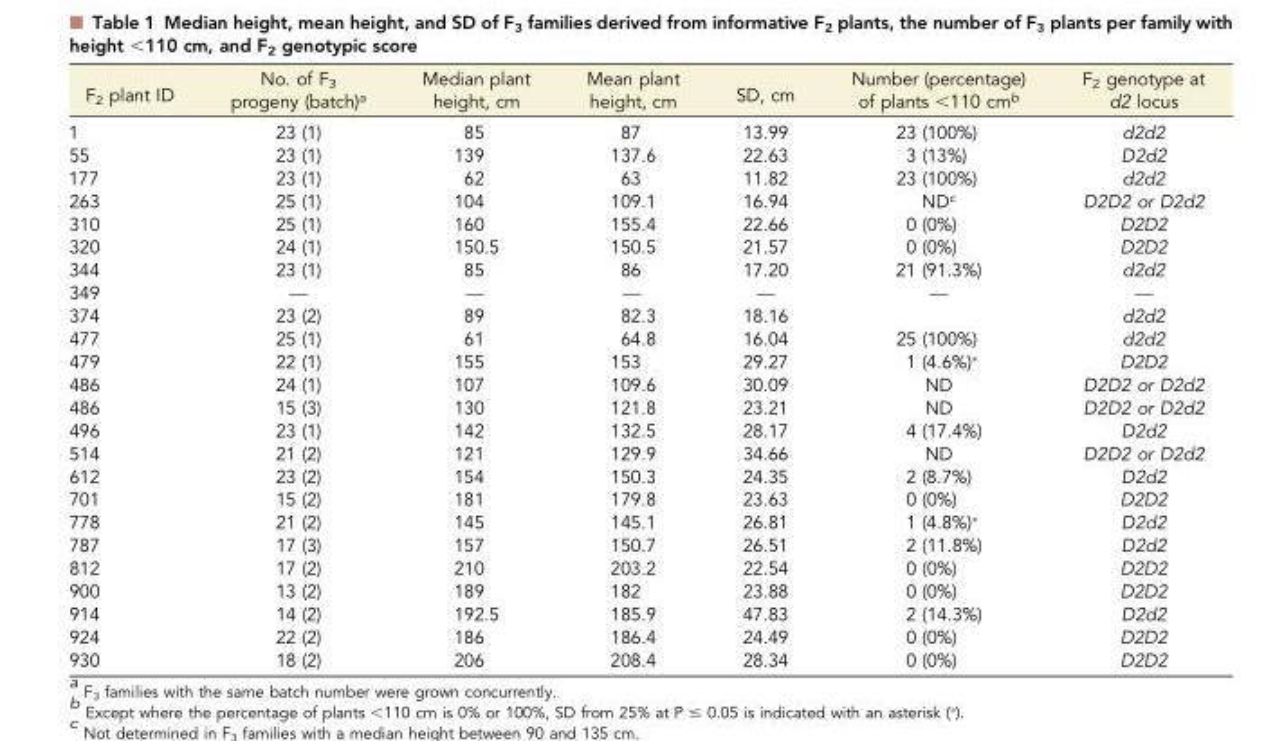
<table><thead><tr><td>F<sub>2</sub> plant ID</td><td>No. of F<sub>3</sub> progeny (batch)<sup>a</sup></td><td>Median plant height, cm</td><td>Mean plant height, cm</td><td>SD, cm</td><td>Number (percentage) of plants &lt;110 cm<sup>b</sup></td><td>F<sub>2</sub> genotype at d2 locus</td></tr></thead><tbody><tr><td>1</td><td>23 (1)</td><td>85</td><td>87</td><td>13.99</td><td>23 (100%)</td><td>d2d2</td></tr><tr><td>55</td><td>23 (1)</td><td>139</td><td>137.6</td><td>22.63</td><td>3 (13%)</td><td>D2d2</td></tr><tr><td>177</td><td>23 (1)</td><td>62</td><td>63</td><td>11.82</td><td>23 (100%)</td><td>d2d2</td></tr><tr><td>263</td><td>25 (1)</td><td>104</td><td>109.1</td><td>16.94</td><td>ND<sup>c</sup></td><td>D2D2 or D2d2</td></tr><tr><td>310</td><td>25 (1)</td><td>160</td><td>155.4</td><td>22.66</td><td>0 (0%)</td><td>D2D2</td></tr><tr><td>320</td><td>24 (1)</td><td>150.5</td><td>150.5</td><td>21.57</td><td>0 (0%)</td><td>D2D2</td></tr><tr><td>344</td><td>23 (1)</td><td>85</td><td>86</td><td>17.20</td><td>21 (91.3%)</td><td>d2d2</td></tr><tr><td>349</td><td>—</td><td>—</td><td>—</td><td>—</td><td>—</td><td>—</td></tr><tr><td>374</td><td>23 (2)</td><td>89</td><td>82.3</td><td>18.16</td><td></td><td>d2d2</td></tr><tr><td>477</td><td>25 (1)</td><td>61</td><td>64.8</td><td>16.04</td><td>25 (100%)</td><td>d2d2</td></tr><tr><td>479</td><td>22 (1)</td><td>155</td><td>153</td><td>29.27</td><td>1 (4.6%)*</td><td>D2D2</td></tr><tr><td>486</td><td>24 (1)</td><td>107</td><td>109.6</td><td>30.09</td><td>ND</td><td>D2D2 or D2d2</td></tr><tr><td>486</td><td>15 (3)</td><td>130</td><td>121.8</td><td>23.21</td><td>ND</td><td>D2D2 or D2d2</td></tr><tr><td>496</td><td>23 (1)</td><td>142</td><td>132.5</td><td>28.17</td><td>4 (17.4%)</td><td>D2d2</td></tr><tr><td>514</td><td>21 (2)</td><td>121</td><td>129.9</td><td>34.66</td><td>ND</td><td>D2D2 or D2d2</td></tr><tr><td>612</td><td>23 (2)</td><td>154</td><td>150.3</td><td>24.35</td><td>2 (8.7%)</td><td>D2d2</td></tr><tr><td>701</td><td>15 (2)</td><td>181</td><td>179.8</td><td>23.63</td><td>0 (0%)</td><td>D2D2</td></tr><tr><td>778</td><td>21 (2)</td><td>145</td><td>145.1</td><td>26.81</td><td>1 (4.8%)*</td><td>D2d2</td></tr><tr><td>787</td><td>17 (3)</td><td>157</td><td>150.7</td><td>26.51</td><td>2 (11.8%)</td><td>D2d2</td></tr><tr><td>812</td><td>17 (2)</td><td>210</td><td>203.2</td><td>22.54</td><td>0 (0%)</td><td>D2D2</td></tr><tr><td>900</td><td>13 (2)</td><td>189</td><td>182</td><td>23.88</td><td>0 (0%)</td><td>D2D2</td></tr><tr><td>914</td><td>14 (2)</td><td>192.5</td><td>185.9</td><td>47.83</td><td>2 (14.3%)</td><td>D2d2</td></tr><tr><td>924</td><td>22 (2)</td><td>186</td><td>186.4</td><td>24.49</td><td>0 (0%)</td><td>D2D2</td></tr><tr><td>930</td><td>18 (2)</td><td>206</td><td>208.4</td><td>28.34</td><td>0 (0%)</td><td>D2D2</td></tr></tbody></table>